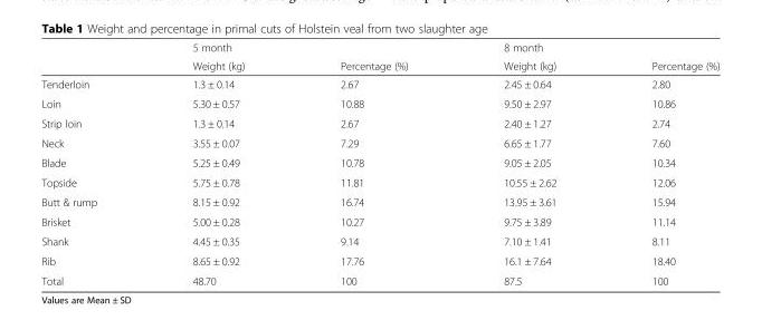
<table><thead><tr><td rowspan="2"></td><td colspan="2">5 month</td><td rowspan="2">8 month Weight (kg)</td><td rowspan="2">Percentage (%)</td></tr><tr><td>Weight (kg)</td><td>Percentage (%)</td></tr></thead><tbody><tr><td>Tenderloin</td><td>1.3 ± 0.14</td><td>2.67</td><td>2.45 ± 0.64</td><td>2.80</td></tr><tr><td>Loin</td><td>5.30 ± 0.57</td><td>10.88</td><td>9.50 ± 2.97</td><td>10.86</td></tr><tr><td>Strip loin</td><td>1.3 ± 0.14</td><td>2.67</td><td>2.40 ± 1.27</td><td>2.74</td></tr><tr><td>Neck</td><td>3.55 ± 0.07</td><td>7.29</td><td>6.65 ± 1.77</td><td>7.60</td></tr><tr><td>Blade</td><td>5.25 ± 0.49</td><td>10.78</td><td>9.05 ± 2.05</td><td>10.34</td></tr><tr><td>Topside</td><td>5.75 ± 0.78</td><td>11.81</td><td>10.55 ± 2.62</td><td>12.06</td></tr><tr><td>Butt &amp; rump</td><td>8.15 ± 0.92</td><td>16.74</td><td>13.95 ± 3.61</td><td>15.94</td></tr><tr><td>Brisket</td><td>5.00 ± 0.28</td><td>10.27</td><td>9.75 ± 3.89</td><td>11.14</td></tr><tr><td>Shank</td><td>4.45 ± 0.35</td><td>9.14</td><td>7.10 ± 1.41</td><td>8.11</td></tr><tr><td>Rib</td><td>8.65 ± 0.92</td><td>17.76</td><td>16.1 ± 7.64</td><td>18.40</td></tr><tr><td>Total</td><td>48.70</td><td>100</td><td>87.5</td><td>100</td></tr></tbody></table>